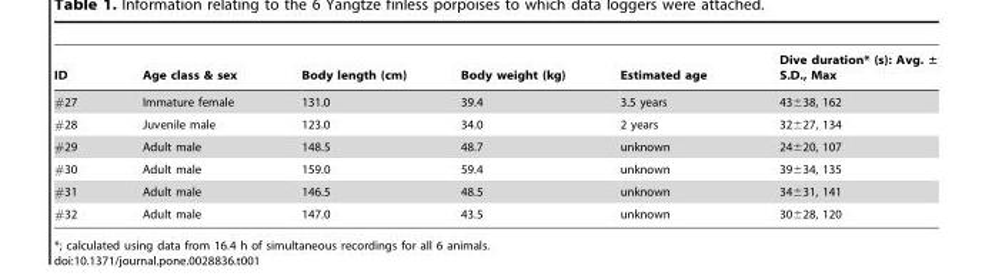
<table><thead><tr><td>ID</td><td>Age class &amp; sex</td><td>Body length (cm)</td><td>Body weight (kg)</td><td>Estimated age</td><td>Dive duration* (s): Avg. ± S.D., Max</td></tr></thead><tbody><tr><td>#27</td><td>Immature female</td><td>131.0</td><td>39.4</td><td>3.5 years</td><td>43±38, 162</td></tr><tr><td>#28</td><td>Juvenile male</td><td>123.0</td><td>34.0</td><td>2 years</td><td>32±27, 134</td></tr><tr><td>#29</td><td>Adult male</td><td>148.5</td><td>48.7</td><td>unknown</td><td>24±20, 107</td></tr><tr><td>#30</td><td>Adult male</td><td>159.0</td><td>59.4</td><td>unknown</td><td>39±34, 135</td></tr><tr><td>#31</td><td>Adult male</td><td>146.5</td><td>48.5</td><td>unknown</td><td>34±31, 141</td></tr><tr><td>#32</td><td>Adult male</td><td>147.0</td><td>43.5</td><td>unknown</td><td>30±28, 120</td></tr></tbody></table>